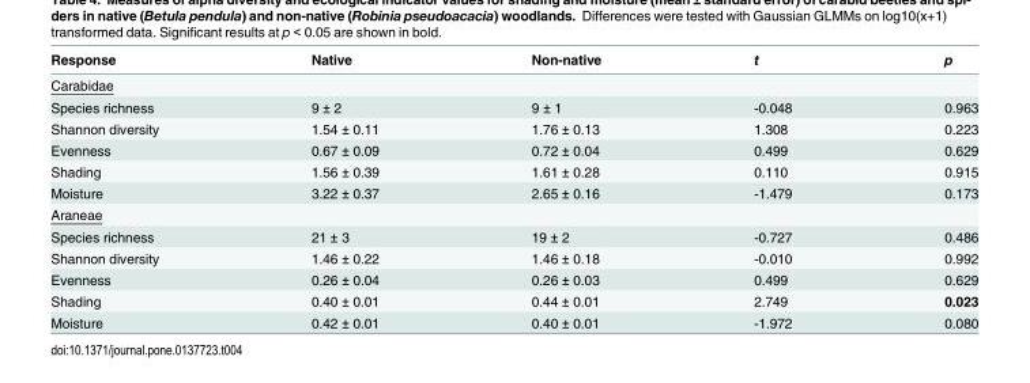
<table><thead><tr><td>Response</td><td>Native</td><td>Non-native</td><td>t</td><td>p</td></tr></thead><tbody><tr><td colspan="5">Carabidae</td></tr><tr><td>Species richness</td><td>9 ± 2</td><td>9 ± 1</td><td>-0.048</td><td>0.963</td></tr><tr><td>Shannon diversity</td><td>1.54 ± 0.11</td><td>1.76 ± 0.13</td><td>1.308</td><td>0.223</td></tr><tr><td>Evenness</td><td>0.67 ± 0.09</td><td>0.72 ± 0.04</td><td>0.499</td><td>0.629</td></tr><tr><td>Shading</td><td>1.56 ± 0.39</td><td>1.61 ± 0.28</td><td>0.110</td><td>0.915</td></tr><tr><td>Moisture</td><td>3.22 ± 0.37</td><td>2.65 ± 0.16</td><td>-1.479</td><td>0.173</td></tr><tr><td colspan="5">Araneae</td></tr><tr><td>Species richness</td><td>21 ± 3</td><td>19 ± 2</td><td>-0.727</td><td>0.486</td></tr><tr><td>Shannon diversity</td><td>1.46 ± 0.22</td><td>1.46 ± 0.18</td><td>-0.010</td><td>0.992</td></tr><tr><td>Evenness</td><td>0.26 ± 0.04</td><td>0.26 ± 0.03</td><td>0.499</td><td>0.629</td></tr><tr><td>Shading</td><td>0.40 ± 0.01</td><td>0.44 ± 0.01</td><td>2.749</td><td>0.023</td></tr><tr><td>Moisture</td><td>0.42 ± 0.01</td><td>0.40 ± 0.01</td><td>-1.972</td><td>0.080</td></tr></tbody></table>